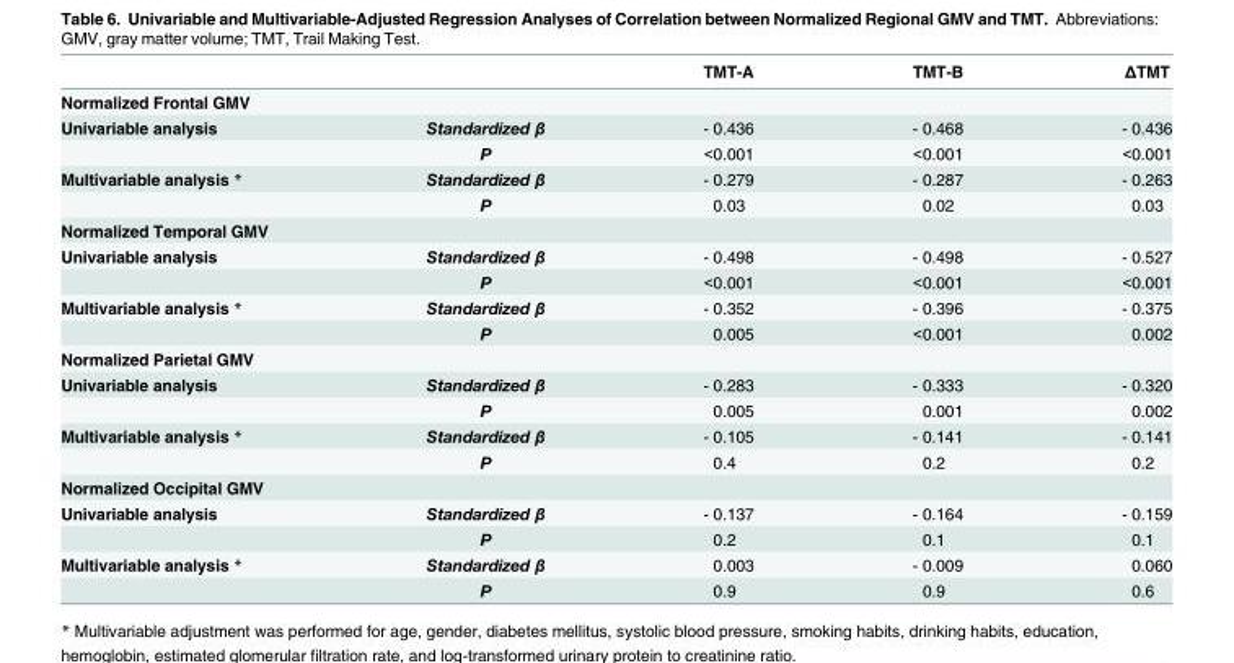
<table><thead><tr><td></td><td></td><td>TMT-A</td><td>TMT-B</td><td>ΔTMT</td></tr></thead><tbody><tr><td colspan="5">Normalized Frontal GMV</td></tr><tr><td rowspan="2">Univariable analysis</td><td>Standardized β</td><td>- 0.436</td><td>- 0.468</td><td>- 0.436</td></tr><tr><td>P</td><td>&lt;0.001</td><td>&lt;0.001</td><td>&lt;0.001</td></tr><tr><td rowspan="2">Multivariable analysis *</td><td>Standardized β</td><td>- 0.279</td><td>- 0.287</td><td>- 0.263</td></tr><tr><td>P</td><td>0.03</td><td>0.02</td><td>0.03</td></tr><tr><td colspan="5">Normalized Temporal GMV</td></tr><tr><td rowspan="2">Univariable analysis</td><td>Standardized β</td><td>- 0.498</td><td>- 0.498</td><td>- 0.527</td></tr><tr><td>P</td><td>&lt;0.001</td><td>&lt;0.001</td><td>&lt;0.001</td></tr><tr><td rowspan="2">Multivariable analysis *</td><td>Standardized β</td><td>- 0.352</td><td>- 0.396</td><td>- 0.375</td></tr><tr><td>P</td><td>0.005</td><td>&lt;0.001</td><td>0.002</td></tr><tr><td colspan="5">Normalized Parietal GMV</td></tr><tr><td rowspan="2">Univariable analysis</td><td>Standardized β</td><td>- 0.283</td><td>- 0.333</td><td>- 0.320</td></tr><tr><td>P</td><td>0.005</td><td>0.001</td><td>0.002</td></tr><tr><td rowspan="2">Multivariable analysis *</td><td>Standardized β</td><td>- 0.105</td><td>- 0.141</td><td>- 0.141</td></tr><tr><td>P</td><td>0.4</td><td>0.2</td><td>0.2</td></tr><tr><td colspan="5">Normalized Occipital GMV</td></tr><tr><td rowspan="2">Univariable analysis</td><td>Standardized β</td><td>- 0.137</td><td>- 0.164</td><td>- 0.159</td></tr><tr><td>P</td><td>0.2</td><td>0.1</td><td>0.1</td></tr><tr><td rowspan="2">Multivariable analysis *</td><td>Standardized β</td><td>0.003</td><td>- 0.009</td><td>0.060</td></tr><tr><td>P</td><td>0.9</td><td>0.9</td><td>0.6</td></tr></tbody></table>